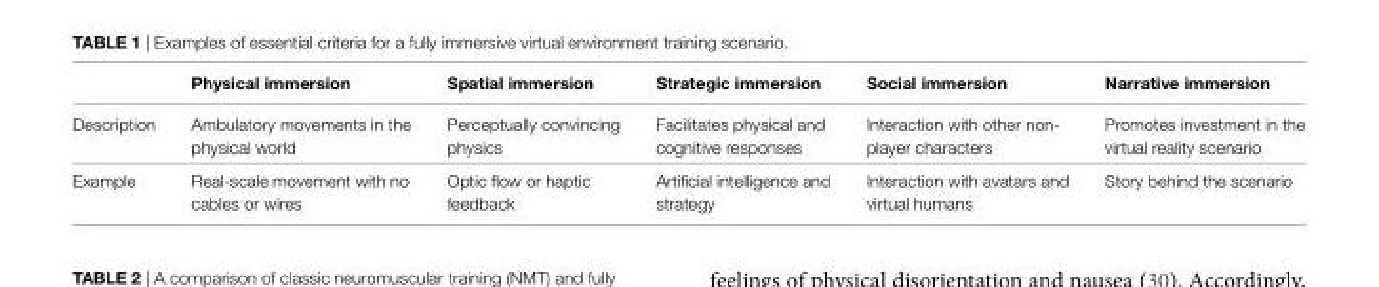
<table><thead><tr><td></td><td>Physical immersion</td><td>spatial immersion</td><td>strategic immersion</td><td>social immersion</td><td>Narrative immersion</td></tr></thead><tbody><tr><td>Description</td><td>Ambulatory movements in the physical world</td><td>Perceptually convincing physics</td><td>Facilitates physical and cognitive responses</td><td>Interaction with other non- player characters</td><td>Promotes investment in the virtual reality scenario</td></tr><tr><td>Example</td><td>Real-scale movement with no cables or wires</td><td>Optic flow or haptic feedback</td><td>Artificial intelligence and strategy</td><td>Interaction with avatars and virtual humans</td><td>Story behind the scenario</td></tr></tbody></table>